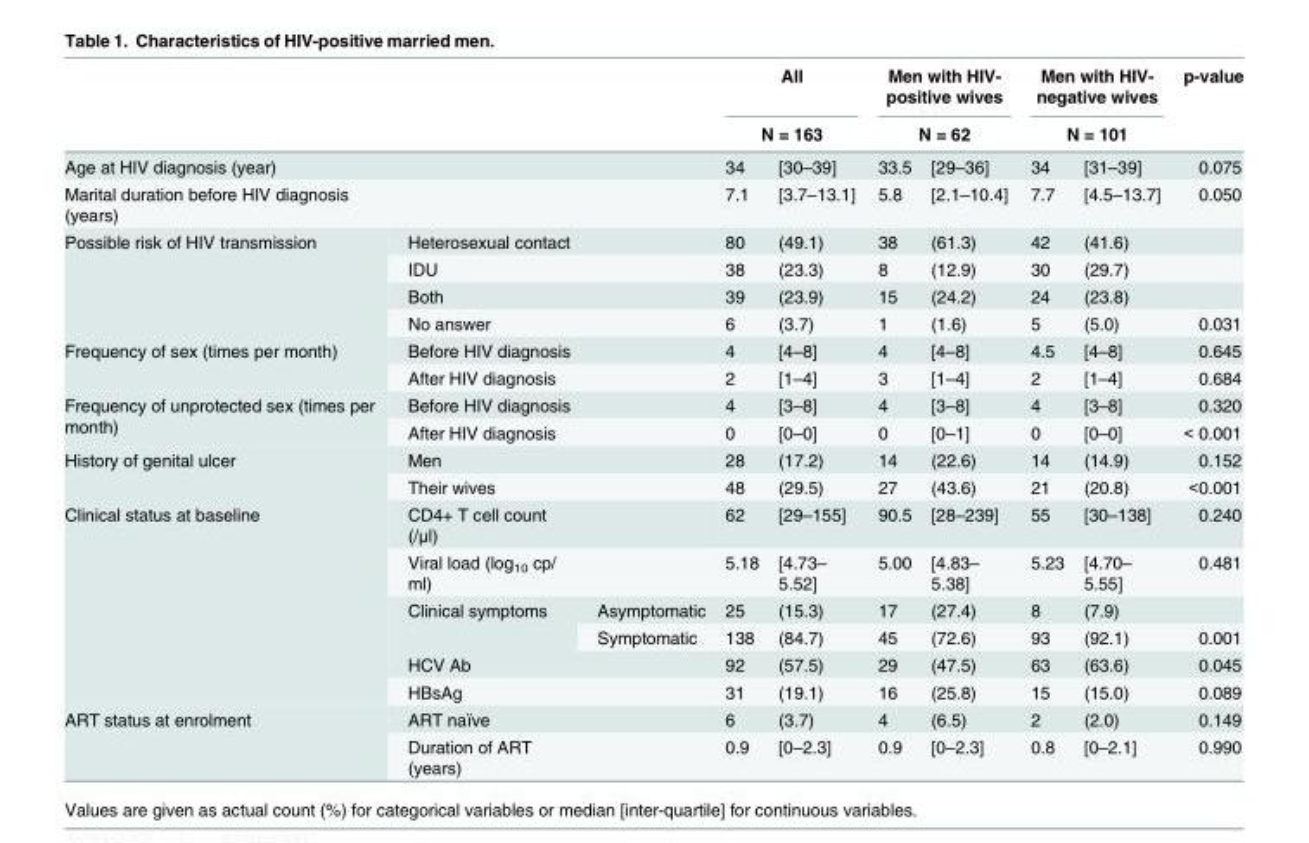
<table><thead><tr><td rowspan="3">Age at HIV diagnosis (year)</td><td rowspan="3"></td><td rowspan="3"></td><td rowspan="2" colspan="2">All N = 163</td><td rowspan="2" colspan="2">Men with HIV- positive wives N = 62</td><td rowspan="2" colspan="2">Men with HIV- negative wives N = 101</td><td rowspan="3">p-value 0.075</td></tr><tr></tr><tr><td>34</td><td>[30–39]</td><td>33.5</td><td>[29–36]</td><td>34</td><td>[31–39]</td></tr></thead><tbody><tr><td>Marital duration before HIV diagnosis (years)</td><td></td><td></td><td>7.1</td><td>[3.7–13.1]</td><td>5.8</td><td>[2.1–10.4]</td><td>7.7</td><td>[4.5–13.7]</td><td>0.050</td></tr><tr><td rowspan="4">Possible risk of HIV transmission</td><td>Heterosexual contact</td><td></td><td>80</td><td>(49.1)</td><td>38</td><td>(61.3)</td><td>42</td><td>(41.6)</td><td></td></tr><tr><td>IDU</td><td></td><td>38</td><td>(23.3)</td><td>8</td><td>(12.9)</td><td>30</td><td>(29.7)</td><td></td></tr><tr><td>Both</td><td></td><td>39</td><td>(23.9)</td><td>15</td><td>(24.2)</td><td>24</td><td>(23.8)</td><td></td></tr><tr><td>No answer</td><td></td><td>6</td><td>(3.7)</td><td>1</td><td>(1.6)</td><td>5</td><td>(5.0)</td><td>0.031</td></tr><tr><td rowspan="2">Frequency of sex (times per month)</td><td>Before HIV diagnosis</td><td></td><td>4</td><td>[4–8]</td><td>4</td><td>[4–8]</td><td>4.5</td><td>[4–8]</td><td>0.645</td></tr><tr><td>After HIV diagnosis</td><td></td><td>2</td><td>[1–4]</td><td>3</td><td>[1–4]</td><td>2</td><td>[1–4]</td><td>0.684</td></tr><tr><td rowspan="2">Frequency of unprotected sex (times per month)</td><td>Before HIV diagnosis</td><td></td><td>4</td><td>[3–8]</td><td>4</td><td>[3–8]</td><td>4</td><td>[3–8]</td><td>0.320</td></tr><tr><td>After HIV diagnosis</td><td></td><td>0</td><td>[0–0]</td><td>0</td><td>[0–1]</td><td>0</td><td>[0–0]</td><td>&lt; 0.001</td></tr><tr><td rowspan="2">History of genital ulcer</td><td>Men</td><td></td><td>28</td><td>(17.2)</td><td>14</td><td>(22.6)</td><td>14</td><td>(14.9)</td><td>0.152</td></tr><tr><td>Their wives</td><td></td><td>48</td><td>(29.5)</td><td>27</td><td>(43.6)</td><td>21</td><td>(20.8)</td><td>&lt;0.001</td></tr><tr><td rowspan="6">Clinical status at baseline</td><td>CD4+ T cell count (/μl)</td><td></td><td>62</td><td>[29–155]</td><td>90.5</td><td>[28–239]</td><td>55</td><td>[30–138]</td><td>0.240</td></tr><tr><td>Viral load (log<sub>10</sub> cp/ ml)</td><td></td><td>5.18</td><td>[4.73– 5.52]</td><td>5.00</td><td>[4.83– 5.38]</td><td>5.23</td><td>[4.70– 5.55]</td><td>0.481</td></tr><tr><td rowspan="2">Clinical symptoms</td><td>Asymptomatic</td><td>25</td><td>(15.3)</td><td>17</td><td>(27.4)</td><td>8</td><td>(7.9)</td><td></td></tr><tr><td>Symptomatic</td><td>138</td><td>(84.7)</td><td>45</td><td>(72.6)</td><td>93</td><td>(92.1)</td><td>0.001</td></tr><tr><td>HCV Ab</td><td></td><td>92</td><td>(57.5)</td><td>29</td><td>(47.5)</td><td>63</td><td>(63.6)</td><td>0.045</td></tr><tr><td>HBsAg</td><td></td><td>31</td><td>(19.1)</td><td>16</td><td>(25.8)</td><td>15</td><td>(15.0)</td><td>0.089</td></tr><tr><td rowspan="2">ART status at enrolment</td><td>ART naïve</td><td></td><td>6</td><td>(3.7)</td><td>4</td><td>(6.5)</td><td>2</td><td>(2.0)</td><td>0.149</td></tr><tr><td>Duration of ART (years)</td><td></td><td>0.9</td><td>[0–2.3]</td><td>0.9</td><td>[0–2.3]</td><td>0.8</td><td>[0–2.1]</td><td>0.990</td></tr></tbody></table>